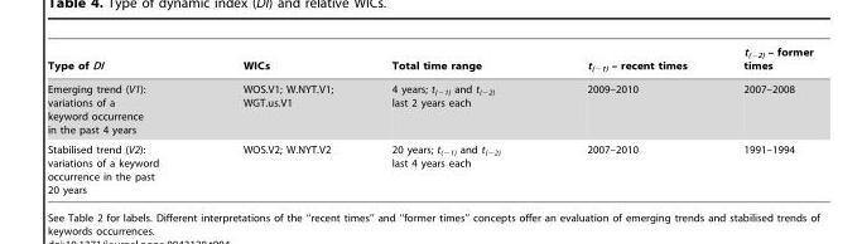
<table><thead><tr><td>Type of DI</td><td>WICs</td><td>Total time range</td><td>t<sub>(−1)</sub> – recent times</td><td>t<sub>(−2)</sub> – former times</td></tr></thead><tbody><tr><td>Emerging trend (V1): variations of a keyword occurrence in the past 4 years</td><td>WOS.V1; W.NYT.V1; WGT.us.V1</td><td>4 years; t<sub>(−1)</sub> and t<sub>(−2)</sub> last 2 years each</td><td>2009–2010</td><td>2007–2008</td></tr><tr><td>Stabilised trend (V2): variations of a keyword occurrence in the past 20 years</td><td>WOS.V2; W.NYT.V2</td><td>20 years; t<sub>(−1)</sub> and t<sub>(−2)</sub> last 4 years each</td><td>2007–2010</td><td>1991–1994</td></tr></tbody></table>